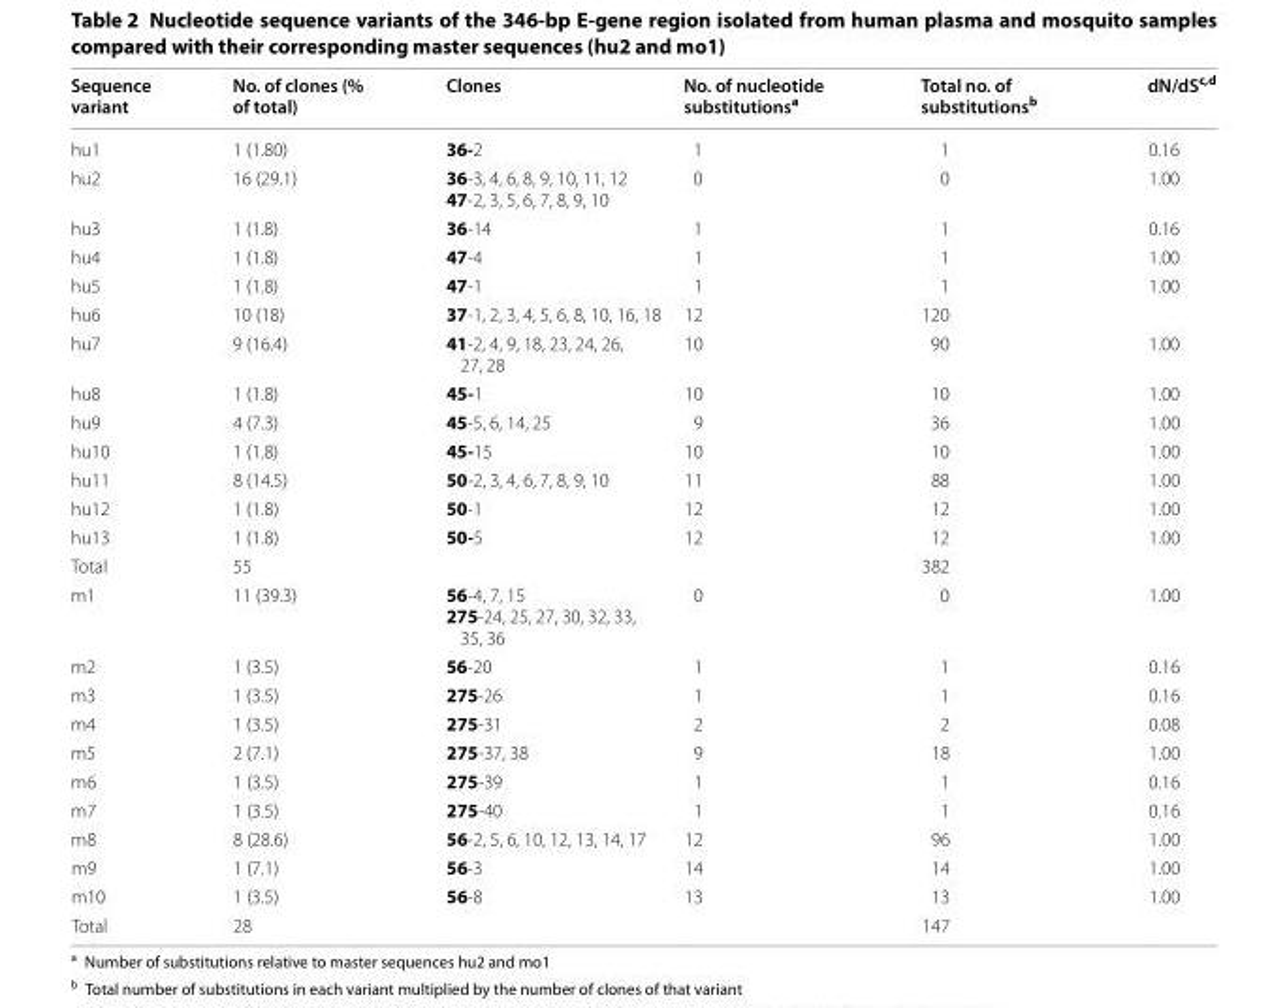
<table><thead><tr><td>Sequence variant</td><td>No. of clones (% of total)</td><td>Clones</td><td>No. of nucleotide substitutions<sup>a</sup></td><td>Total no. of substitutions<sup>b</sup></td><td>dN/dS<sup>c,d</sup></td></tr></thead><tbody><tr><td>hu1</td><td>1 (1.80)</td><td>36-2</td><td>1</td><td>1</td><td>0.16</td></tr><tr><td>hu2</td><td>16 (29.1)</td><td>36-3, 4, 6, 8, 9, 10, 11, 12 47-2, 3, 5, 6, 7, 8, 9, 10</td><td>0</td><td>0</td><td>1.00</td></tr><tr><td>hu3</td><td>1 (1.8)</td><td>36-14</td><td>1</td><td>1</td><td>0.16</td></tr><tr><td>hu4</td><td>1 (1.8)</td><td>47-4</td><td>1</td><td>1</td><td>1.00</td></tr><tr><td>hu5</td><td>1 (1.8)</td><td>47-1</td><td>1</td><td>1</td><td>1.00</td></tr><tr><td>hu6</td><td>10 (18)</td><td>37-1, 2, 3, 4, 5, 6, 8, 10, 16, 18</td><td>12</td><td>120</td><td></td></tr><tr><td>hu7</td><td>9 (16.4)</td><td>41-2, 4, 9, 18, 23, 24, 26, 27, 28</td><td>10</td><td>90</td><td>1.00</td></tr><tr><td>hu8</td><td>1 (1.8)</td><td>45-1</td><td>10</td><td>10</td><td>1.00</td></tr><tr><td>hu9</td><td>4 (7.3)</td><td>45-5, 6, 14, 25</td><td>9</td><td>36</td><td>1.00</td></tr><tr><td>hu10</td><td>1 (1.8)</td><td>45-15</td><td>10</td><td>10</td><td>1.00</td></tr><tr><td>hu11</td><td>8 (14.5)</td><td>50-2, 3, 4, 6, 7, 8, 9, 10</td><td>11</td><td>88</td><td>1.00</td></tr><tr><td>hu12</td><td>1 (1.8)</td><td>50-1</td><td>12</td><td>12</td><td>1.00</td></tr><tr><td>hu13</td><td>1 (1.8)</td><td>50-5</td><td>12</td><td>12</td><td>1.00</td></tr><tr><td>Total</td><td>55</td><td></td><td></td><td>382</td><td></td></tr><tr><td>m1</td><td>11 (39.3)</td><td>56-4, 7, 15 275-24, 25, 27, 30, 32, 33, 35, 36</td><td>0</td><td>0</td><td>1.00</td></tr><tr><td>m2</td><td>1 (3.5)</td><td>56-20</td><td>1</td><td>1</td><td>0.16</td></tr><tr><td>m3</td><td>1 (3.5)</td><td>275-26</td><td>1</td><td>1</td><td>0.16</td></tr><tr><td>m4</td><td>1 (3.5)</td><td>275-31</td><td>2</td><td>2</td><td>0.08</td></tr><tr><td>m5</td><td>2 (7.1)</td><td>275-37, 38</td><td>9</td><td>18</td><td>1.00</td></tr><tr><td>m6</td><td>1 (3.5)</td><td>275-39</td><td>1</td><td>1</td><td>0.16</td></tr><tr><td>m7</td><td>1 (3.5)</td><td>275-40</td><td>1</td><td>1</td><td>0.16</td></tr><tr><td>m8</td><td>8 (28.6)</td><td>56-2, 5, 6, 10, 12, 13, 14, 17</td><td>12</td><td>96</td><td>1.00</td></tr><tr><td>m9</td><td>1 (7.1)</td><td>56-3</td><td>14</td><td>14</td><td>1.00</td></tr><tr><td>m10</td><td>1 (3.5)</td><td>56-8</td><td>13</td><td>13</td><td>1.00</td></tr><tr><td>Total</td><td>28</td><td></td><td></td><td>147</td><td></td></tr></tbody></table>